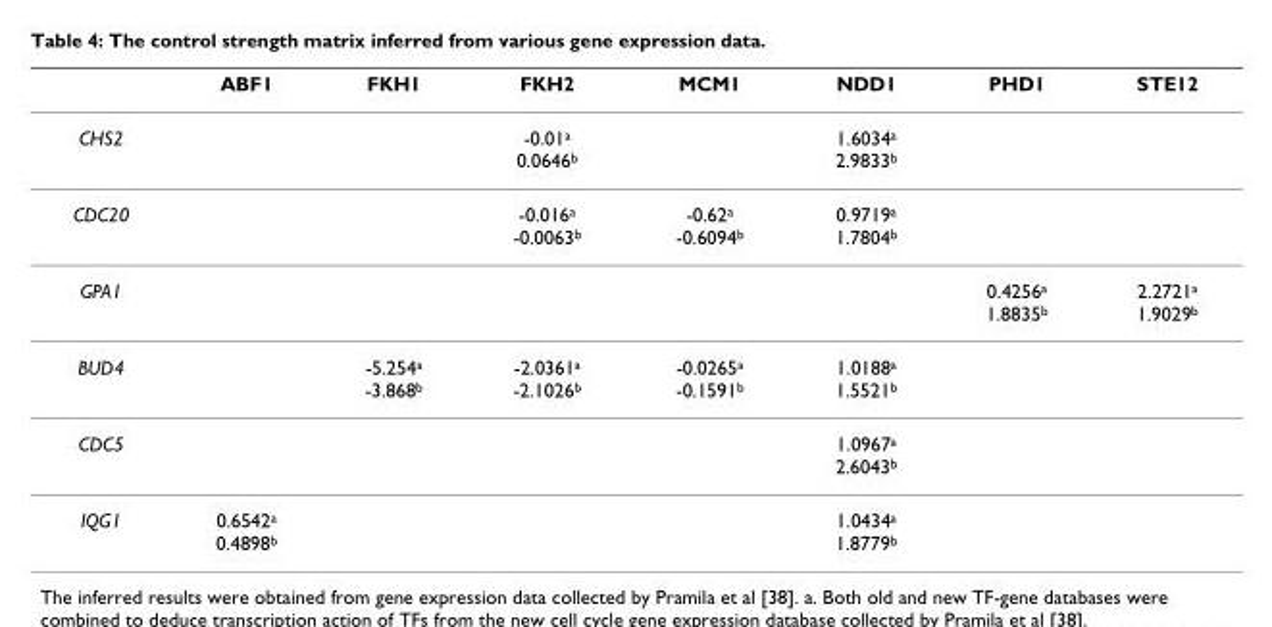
<table><thead><tr><td></td><td>ABF1</td><td>FKH1</td><td>FKH2</td><td>MCM1</td><td>NDD1</td><td>PHD1</td><td>STE12</td></tr></thead><tbody><tr><td>CHS2</td><td></td><td></td><td>-0.01<sup>a</sup> 0.0646<sup>b</sup></td><td></td><td>1.6034<sup>a</sup> 2.9833<sup>b</sup></td><td></td><td></td></tr><tr><td>CDC20</td><td></td><td></td><td>-0.016<sup>a</sup> -0.0063<sup>b</sup></td><td>-0.62<sup>a</sup> -0.6094<sup>b</sup></td><td>0.9719<sup>a</sup> 1.7804<sup>b</sup></td><td></td><td></td></tr><tr><td>GPA1</td><td></td><td></td><td></td><td></td><td></td><td>0.4256<sup>a</sup> 1.8835<sup>b</sup></td><td>2.2721<sup>a</sup> 1.9029<sup>b</sup></td></tr><tr><td>BUD4</td><td></td><td>-5.254<sup>a</sup> -3.868<sup>b</sup></td><td>-2.0361<sup>a</sup> -2.1026<sup>b</sup></td><td>-0.0265<sup>a</sup> -0.1591<sup>b</sup></td><td>1.0188<sup>a</sup> 1.5521<sup>b</sup></td><td></td><td></td></tr><tr><td>CDC5</td><td></td><td></td><td></td><td></td><td>1.0967<sup>a</sup> 2.6043<sup>b</sup></td><td></td><td></td></tr><tr><td>IQG1</td><td>0.6542<sup>a</sup> 0.4898<sup>b</sup></td><td></td><td></td><td></td><td>1.0434<sup>a</sup> 1.8779<sup>b</sup></td><td></td><td></td></tr></tbody></table>